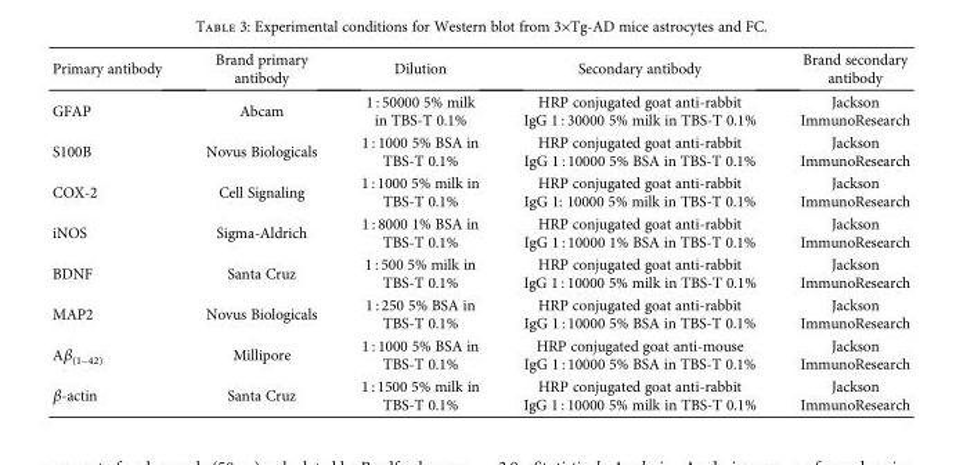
<table><thead><tr><td>Primary antibody</td><td>Brand primary antibody</td><td>Dilution</td><td>Secondary antibody</td><td>Brand secondary antibody</td></tr></thead><tbody><tr><td>GFAP</td><td>Abcam</td><td>1 : 50000 5% milk in TBS-T 0.1%</td><td>HRP conjugated goat anti-rabbit IgG 1 : 30000 5% milk in TBS-T 0.1%</td><td>Jackson ImmunoResearch</td></tr><tr><td>S100B</td><td>Novus Biologicals</td><td>1 : 1000 5% BSA in TBS-T 0.1%</td><td>HRP conjugated goat anti-rabbit IgG 1 : 10000 5% BSA in TBS-T 0.1%</td><td>Jackson ImmunoResearch</td></tr><tr><td>COX-2</td><td>Cell Signaling</td><td>1 : 1000 5% milk in TBS-T 0.1%</td><td>HRP conjugated goat anti-rabbit IgG 1: 10000 5% milk in TBS-T 0.1%</td><td>Jackson ImmunoResearch</td></tr><tr><td>iNOS</td><td>Sigma-Aldrich</td><td>1 : 8000 1% BSA in TBS-T 0.1%</td><td>HRP conjugated goat anti-rabbit IgG 1 : 10000 1% BSA in TBS-T 0.1%</td><td>Jackson ImmunoResearch</td></tr><tr><td>BDNF</td><td>Santa Cruz</td><td>1 : 500 5% milk in TBS-T 0.1%</td><td>HRP conjugated goat anti-rabbit IgG 1 : 10000 5% milk in TBS-T 0.1%</td><td>Jackson ImmunoResearch</td></tr><tr><td>MAP2</td><td>Novus Biologicals</td><td>1 : 250 5% BSA in TBS-T 0.1%</td><td>HRP conjugated goat anti-rabbit IgG 1 : 10000 5% BSA in TBS-T 0.1%</td><td>Jackson ImmunoResearch</td></tr><tr><td>Aβ<sub>(1–42)</sub></td><td>Millipore</td><td>1 : 1000 5% BSA in TBS-T 0.1%</td><td>HRP conjugated goat anti-mouse IgG 1 : 10000 5% BSA in TBS-T 0.1%</td><td>Jackson ImmunoResearch</td></tr><tr><td>β-actin</td><td>Santa Cruz</td><td>1 : 1500 5% milk in TBS-T 0.1%</td><td>HRP conjugated goat anti-rabbit IgG 1 : 10000 5% milk in TBS-T 0.1%</td><td>Jackson ImmunoResearch</td></tr></tbody></table>